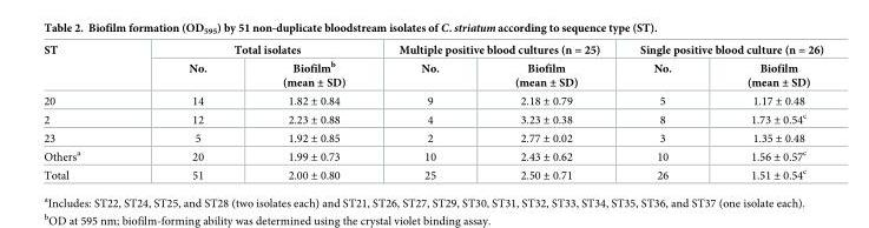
<table><thead><tr><td rowspan="2">ST</td><td colspan="2">Total isolates</td><td colspan="2">Multiple positive blood cultures (n = 25)</td><td colspan="2">Single positive blood culture (n = 26)</td></tr><tr><td>No.</td><td>Biofilm<sup>b</sup> (mean ± SD)</td><td>No.</td><td>Biofilm (mean ± SD)</td><td>No.</td><td>Biofilm (mean ± SD)</td></tr></thead><tbody><tr><td>20</td><td>14</td><td>1.82 ± 0.84</td><td>9</td><td>2.18 ± 0.79</td><td>5</td><td>1.17 ± 0.48</td></tr><tr><td>2</td><td>12</td><td>2.23 ± 0.88</td><td>4</td><td>3.23 ± 0.38</td><td>8</td><td>1.73 ± 0.54<sup>c</sup></td></tr><tr><td>23</td><td>5</td><td>1.92 ± 0.85</td><td>2</td><td>2.77 ± 0.02</td><td>3</td><td>1.35 ± 0.48</td></tr><tr><td>Others<sup>a</sup></td><td>20</td><td>1.99 ± 0.73</td><td>10</td><td>2.43 ± 0.62</td><td>10</td><td>1.56 ± 0.57<sup>c</sup></td></tr><tr><td>Total</td><td>51</td><td>2.00 ± 0.80</td><td>25</td><td>2.50 ± 0.71</td><td>26</td><td>1.51 ± 0.54<sup>c</sup></td></tr></tbody></table>